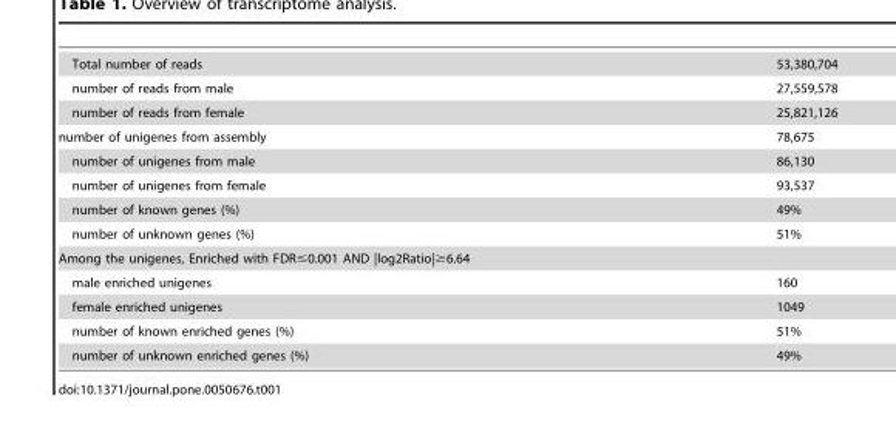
<table><tbody><tr><td>Total number of reads</td><td>53,380,704</td></tr><tr><td>number of reads from male</td><td>27,559,578</td></tr><tr><td>number of reads from female</td><td>25,821,126</td></tr><tr><td>number of unigenes from assembly</td><td>78,675</td></tr><tr><td>number of unigenes from male</td><td>86,130</td></tr><tr><td>number of unigenes from female</td><td>93,537</td></tr><tr><td>number of known genes (%)</td><td>49%</td></tr><tr><td>number of unknown genes (%)</td><td>51%</td></tr><tr><td colspan="2">Among the unigenes, Enriched with FDR≤0.001 AND |log2Ratio|≥6.64</td></tr><tr><td>male enriched unigenes</td><td>160</td></tr><tr><td>female enriched unigenes</td><td>1049</td></tr><tr><td>number of known enriched genes (%)</td><td>51%</td></tr><tr><td>number of unknown enriched genes (%)</td><td>49%</td></tr></tbody></table>